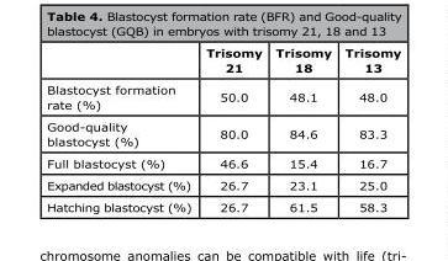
<table><thead><tr><td></td><td>Trisomy 21</td><td>Trisomy 18</td><td>Trisomy 13</td></tr></thead><tbody><tr><td>Blastocyst formation rate (%)</td><td>50.0</td><td>48.1</td><td>48.0</td></tr><tr><td>Good-quality blastocyst (%)</td><td>80.0</td><td>84.6</td><td>83.3</td></tr><tr><td>Full blastocyst (%)</td><td>46.6</td><td>15.4</td><td>16.7</td></tr><tr><td>Expanded blastocyst (%)</td><td>26.7</td><td>23.1</td><td>25.0</td></tr><tr><td>Hatching blastocyst (%)</td><td>26.7</td><td>61.5</td><td>58.3</td></tr></tbody></table>